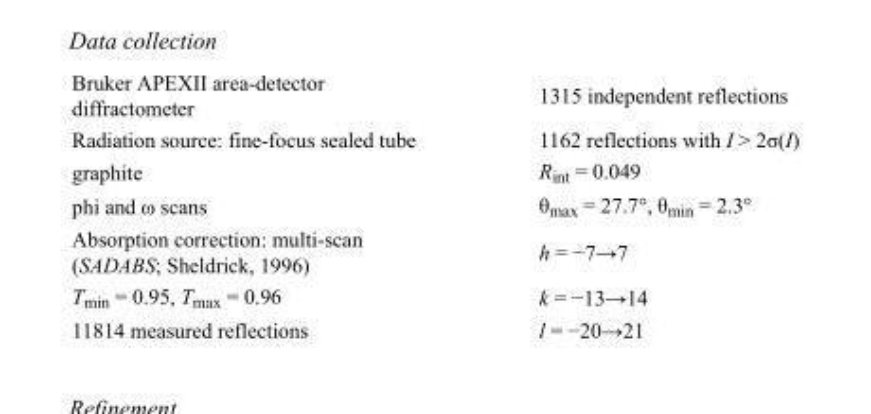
<table><tbody><tr><td>Bruker APEXII area-detector diffractometer</td><td>1315 independent reflections</td></tr><tr><td>Radiation source: fine-focus sealed tube</td><td>1162 reflections with I &gt; 2σ(I)</td></tr><tr><td>graphite</td><td>R<sub>int</sub> = 0.049</td></tr><tr><td>phi and ω scans</td><td>θ<sub>max</sub> = 27.7°, θ<sub>min</sub> = 2.3°</td></tr><tr><td>Absorption correction: multi-scan (SADABS; Sheldrick, 1996)</td><td>h = −7→7</td></tr><tr><td>T<sub>min</sub> = 0.95, T<sub>max</sub> = 0.96</td><td>k = −13→14</td></tr><tr><td>11814 measured reflections</td><td>l = −20→21</td></tr></tbody></table>